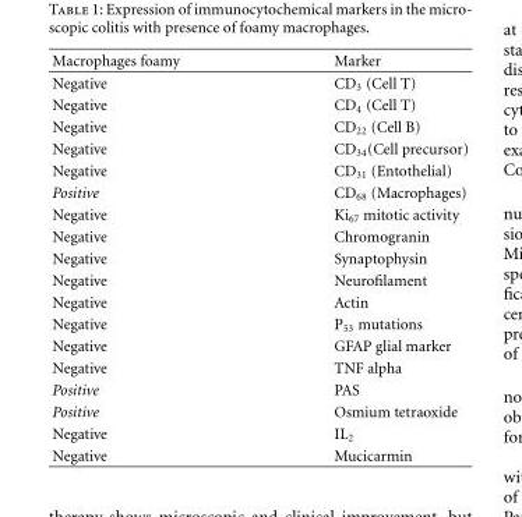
<table><thead><tr><td>Macrophages foamy</td><td>Marker</td></tr></thead><tbody><tr><td>Negative</td><td>CD<sub>3</sub> (Cell T)</td></tr><tr><td>Negative</td><td>CD<sub>4</sub> (Cell T)</td></tr><tr><td>Negative</td><td>CD<sub>22</sub> (Cell B)</td></tr><tr><td>Negative</td><td>CD<sub>34</sub>(Cell precursor)</td></tr><tr><td>Negative</td><td>CD<sub>31</sub> (Entothelial)</td></tr><tr><td>Positive</td><td>CD<sub>68</sub> (Macrophages)</td></tr><tr><td>Negative</td><td>Ki<sub>67</sub> mitotic activity</td></tr><tr><td>Negative</td><td>Chromogranin</td></tr><tr><td>Negative</td><td>Synaptophysin</td></tr><tr><td>Negative</td><td>Neurofilament</td></tr><tr><td>Negative</td><td>Actin</td></tr><tr><td>Negative</td><td>P<sub>53</sub> mutations</td></tr><tr><td>Negative</td><td>GFAP glial marker</td></tr><tr><td>Negative</td><td>TNF alpha</td></tr><tr><td>Positive</td><td>PAS</td></tr><tr><td>Positive</td><td>Osmium tetraoxide</td></tr><tr><td>Negative</td><td>IL<sub>2</sub></td></tr><tr><td>Negative</td><td>Mucicarmin</td></tr></tbody></table>